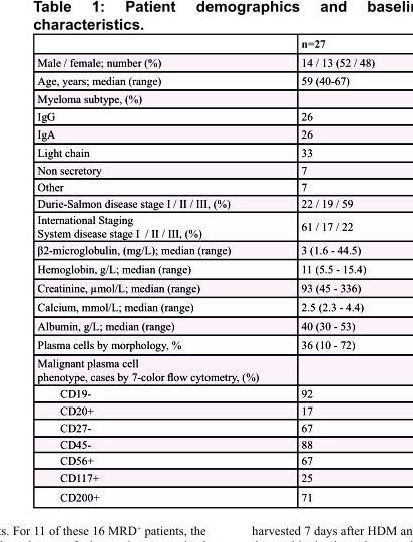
<table><thead><tr><td></td><td>n=27</td></tr></thead><tbody><tr><td>Male / female; number (%)</td><td>14 / 13 (52 / 48)</td></tr><tr><td>Age, years; median (range)</td><td>59 (40-67)</td></tr><tr><td colspan="2">Myeloma subtype, (%)</td></tr><tr><td>IgG</td><td>26</td></tr><tr><td>IgA</td><td>26</td></tr><tr><td>Light chain</td><td>33</td></tr><tr><td>Non secretory</td><td>7</td></tr><tr><td>Other</td><td>7</td></tr><tr><td>Durie-Salmon disease stage I / II / III, (%)</td><td>22 / 19 / 59</td></tr><tr><td>International Staging System disease stage I / II / III, (%)</td><td>61 / 17 / 22</td></tr><tr><td>β2-microglobulin, (mg/L); median (range)</td><td>3 (1.6 - 44.5)</td></tr><tr><td>Hemoglobin, g/L; median (range)</td><td>11 (5.5 - 15.4)</td></tr><tr><td>Creatinine, µmol/L; median (range)</td><td>93 (45 - 336)</td></tr><tr><td>Calcium, mmol/L; median (range)</td><td>2.5 (2.3 - 4.4)</td></tr><tr><td>Albumin, g/L; median (range)</td><td>40 (30 - 53)</td></tr><tr><td>Plasma cells by morphology, %</td><td>36 (10 - 72)</td></tr><tr><td colspan="2">Malignant plasma cell phenotype, cases by 7-color flow cytometry, (%)</td></tr><tr><td>CD19-</td><td>92</td></tr><tr><td>CD20+</td><td>17</td></tr><tr><td>CD27-</td><td>67</td></tr><tr><td>CD45-</td><td>88</td></tr><tr><td>CD56+</td><td>67</td></tr><tr><td>CD117+</td><td>25</td></tr><tr><td>CD200+</td><td>71</td></tr></tbody></table>